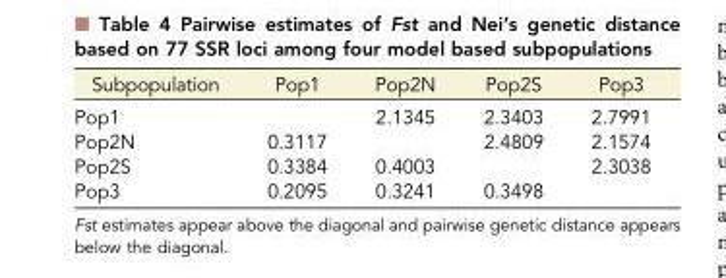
<table><thead><tr><td>Subpopulation</td><td>Pop1</td><td>Pop2N</td><td>Pop2S</td><td>Pop3</td></tr></thead><tbody><tr><td>Pop1</td><td></td><td>2.1345</td><td>2.3403</td><td>2.7991</td></tr><tr><td>Pop2N</td><td>0.3117</td><td></td><td>2.4809</td><td>2.1574</td></tr><tr><td>Pop2S</td><td>0.3384</td><td>0.4003</td><td></td><td>2.3038</td></tr><tr><td>Pop3</td><td>0.2095</td><td>0.3241</td><td>0.3498</td><td></td></tr></tbody></table>